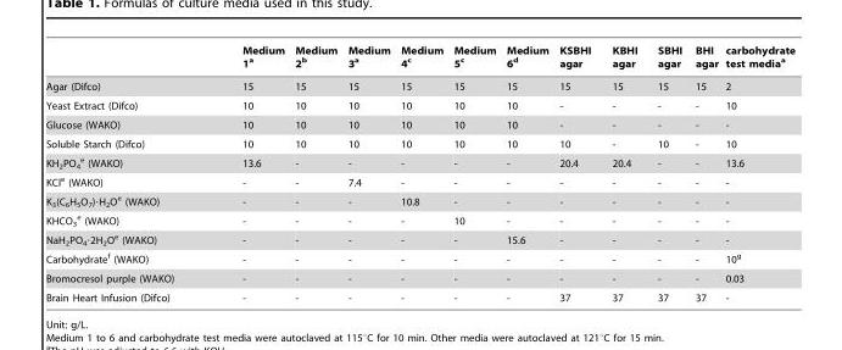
<table><thead><tr><td></td><td>Medium 1<sup>a</sup></td><td>Medium 2<sup>b</sup></td><td>Medium 3<sup>a</sup></td><td>Medium 4<sup>c</sup></td><td>Medium 5<sup>c</sup></td><td>Medium 6<sup>d</sup></td><td>KSBHI agar</td><td>KBHI agar</td><td>SBHI agar</td><td>BHI agar</td><td>carbohydrate test media<sup>a</sup></td></tr></thead><tbody><tr><td>Agar (Difco)</td><td>15</td><td>15</td><td>15</td><td>15</td><td>15</td><td>15</td><td>15</td><td>15</td><td>15</td><td>15</td><td>2</td></tr><tr><td>Yeast Extract (Difco)</td><td>10</td><td>10</td><td>10</td><td>10</td><td>10</td><td>10</td><td>-</td><td>-</td><td>-</td><td>-</td><td>10</td></tr><tr><td>Glucose (WAKO)</td><td>10</td><td>10</td><td>10</td><td>10</td><td>10</td><td>10</td><td>-</td><td>-</td><td>-</td><td>-</td><td>-</td></tr><tr><td>Soluble Starch (Difco)</td><td>10</td><td>10</td><td>10</td><td>10</td><td>10</td><td>10</td><td>10</td><td>-</td><td>10</td><td>-</td><td>10</td></tr><tr><td>KH<sub>2</sub>PO<sub>4</sub> e (WAKO)</td><td>13.6</td><td>-</td><td>-</td><td>-</td><td>-</td><td>-</td><td>20.4</td><td>20.4</td><td>-</td><td>-</td><td>13.6</td></tr><tr><td>KCl<sup>e</sup> (WAKO)</td><td>-</td><td>-</td><td>7.4</td><td>-</td><td>-</td><td>-</td><td>-</td><td>-</td><td>-</td><td>-</td><td>-</td></tr><tr><td>K<sub>3</sub>(C<sub>6</sub>H<sub>5</sub>O<sub>7</sub>)·H<sub>2</sub>O<sup>e</sup> (WAKO)</td><td>-</td><td>-</td><td>-</td><td>10.8</td><td>-</td><td>-</td><td>-</td><td>-</td><td>-</td><td>-</td><td>-</td></tr><tr><td>KHCO<sub>3</sub> e (WAKO)</td><td>-</td><td>-</td><td>-</td><td>-</td><td>10</td><td>-</td><td>-</td><td>-</td><td>-</td><td>-</td><td>-</td></tr><tr><td>NaH<sub>2</sub>PO<sub>4</sub>·2H<sub>2</sub>O<sup>e</sup> (WAKO)</td><td>-</td><td>-</td><td>-</td><td>-</td><td>-</td><td>15.6</td><td>-</td><td>-</td><td>-</td><td>-</td><td>-</td></tr><tr><td>Carbohydrate<sup>f</sup> (WAKO)</td><td>-</td><td>-</td><td>-</td><td>-</td><td>-</td><td>-</td><td>-</td><td>-</td><td>-</td><td>-</td><td>10<sup>g</sup></td></tr><tr><td>Bromocresol purple (WAKO)</td><td>-</td><td>-</td><td>-</td><td>-</td><td>-</td><td>-</td><td>-</td><td>-</td><td>-</td><td>-</td><td>0.03</td></tr><tr><td>Brain Heart Infusion (Difco)</td><td>-</td><td>-</td><td>-</td><td>-</td><td>-</td><td>-</td><td>37</td><td>37</td><td>37</td><td>37</td><td>-</td></tr></tbody></table>